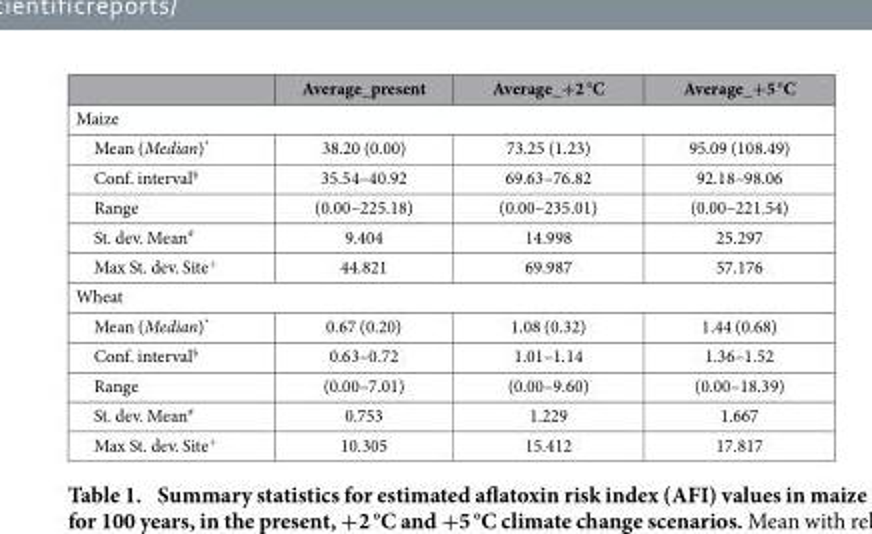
<table><thead><tr><td></td><td>Average_present</td><td>Average_+2 °C</td><td>Average_+5 °C</td></tr></thead><tbody><tr><td colspan="4">Maize</td></tr><tr><td>Mean (Median)*</td><td>38.20 (0.00)</td><td>73.25 (1.23)</td><td>95.09 (108.49)</td></tr><tr><td>Conf. interval§</td><td>35.54–40.92</td><td>69.63–76.82</td><td>92.18–98.06</td></tr><tr><td>Range</td><td>(0.00–225.18)</td><td>(0.00–235.01)</td><td>(0.00–221.54)</td></tr><tr><td>St. dev. Mean#</td><td>9.404</td><td>14.998</td><td>25.297</td></tr><tr><td>Max St. dev. Site+</td><td>44.821</td><td>69.987</td><td>57.176</td></tr><tr><td colspan="4">Wheat</td></tr><tr><td>Mean (Median)*</td><td>0.67 (0.20)</td><td>1.08 (0.32)</td><td>1.44 (0.68)</td></tr><tr><td>Conf. interval§</td><td>0.63–0.72</td><td>1.01–1.14</td><td>1.36–1.52</td></tr><tr><td>Range</td><td>(0.00–7.01)</td><td>(0.00–9.60)</td><td>(0.00–18.39)</td></tr><tr><td>St. dev. Mean#</td><td>0.753</td><td>1.229</td><td>1.667</td></tr><tr><td>Max St. dev. Site+</td><td>10.305</td><td>15.412</td><td>17.817</td></tr></tbody></table>